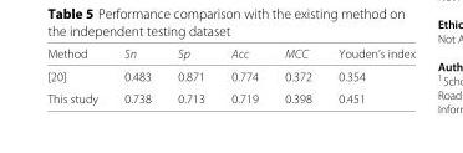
<table><thead><tr><td>Method</td><td>Sn</td><td>Sp</td><td>Acc</td><td>MCC</td><td>Youden’s index</td></tr></thead><tbody><tr><td>[20]</td><td>0.483</td><td>0.871</td><td>0.774</td><td>0.372</td><td>0.354</td></tr><tr><td>This study</td><td>0.738</td><td>0.713</td><td>0.719</td><td>0.398</td><td>0.451</td></tr></tbody></table>